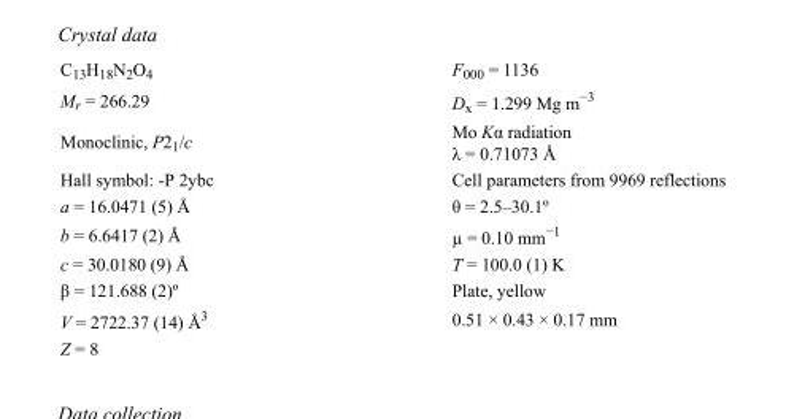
<table><tbody><tr><td>C<sub>13</sub>H<sub>18</sub>N<sub>2</sub>O<sub>4</sub></td><td>F<sub>000</sub> = 1136</td></tr><tr><td>M<sub>r</sub> = 266.29</td><td>D<sub>x</sub> = 1.299 Mg m<sup>−3</sup></td></tr><tr><td>Monoclinic, P2<sub>1</sub>/c</td><td>Mo Kα radiation λ = 0.71073 Å</td></tr><tr><td>Hall symbol: -P 2ybc</td><td>Cell parameters from 9969 reflections</td></tr><tr><td>a = 16.0471 (5) Å</td><td>θ = 2.5–30.1º</td></tr><tr><td>b = 6.6417 (2) Å</td><td>µ = 0.10 mm<sup>−1</sup></td></tr><tr><td>c = 30.0180 (9) Å</td><td>T = 100.0 (1) K</td></tr><tr><td>β = 121.688 (2)º</td><td>Plate, yellow</td></tr><tr><td>V = 2722.37 (14) Å<sup>3</sup></td><td>0.51 × 0.43 × 0.17 mm</td></tr><tr><td>Z = 8</td><td></td></tr></tbody></table>